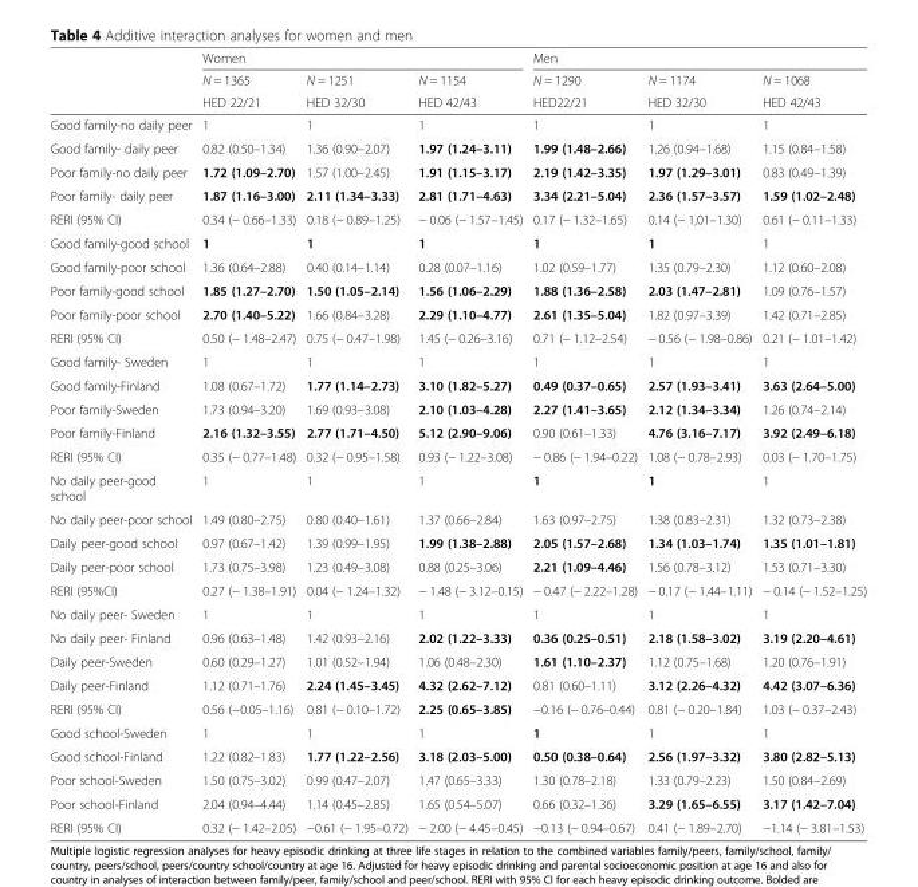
<table><thead><tr><td rowspan="3"></td><td colspan="3">Women</td><td colspan="3">Men</td></tr><tr><td rowspan="2">N = 1365 HED 22/21</td><td rowspan="2">N = 1251 HED 32/30</td><td rowspan="2">N = 1154 HED 42/43</td><td rowspan="2">N = 1290 HED22/21</td><td rowspan="2">N = 1174 HED 32/30</td><td rowspan="2">N = 1068 HED 42/43</td></tr><tr></tr></thead><tbody><tr><td>Good family-no daily peer</td><td>1</td><td>1</td><td>1</td><td>1</td><td>1</td><td>1</td></tr><tr><td>Good family- daily peer</td><td>0.82 (0.50–1.34)</td><td>1.36 (0.90–2.07)</td><td>1.97 (1.24–3.11)</td><td>1.99 (1.48–2.66)</td><td>1.26 (0.94–1.68)</td><td>1.15 (0.84–1.58)</td></tr><tr><td>Poor family-no daily peer</td><td>1.72 (1.09–2.70)</td><td>1.57 (1.00–2.45)</td><td>1.91 (1.15–3.17)</td><td>2.19 (1.42–3.35)</td><td>1.97 (1.29–3.01)</td><td>0.83 (0.49–1.39)</td></tr><tr><td>Poor family- daily peer</td><td>1.87 (1.16–3.00)</td><td>2.11 (1.34–3.33)</td><td>2.81 (1.71–4.63)</td><td>3.34 (2.21–5.04)</td><td>2.36 (1.57–3.57)</td><td>1.59 (1.02–2.48)</td></tr><tr><td>RERI (95% CI)</td><td>0.34 (− 0.66–1.33)</td><td>0.18 (− 0.89–1.25)</td><td>− 0.06 (− 1.57–1.45)</td><td>0.17 (− 1.32–1.65)</td><td>0.14 (− 1,01–1.30)</td><td>0.61 (− 0.11–1.33)</td></tr><tr><td>Good family-good school</td><td>1</td><td>1</td><td>1</td><td>1</td><td>1</td><td>1</td></tr><tr><td>Good family-poor school</td><td>1.36 (0.64–2.88)</td><td>0.40 (0.14–1.14)</td><td>0.28 (0.07–1.16)</td><td>1.02 (0.59–1.77)</td><td>1.35 (0.79–2.30)</td><td>1.12 (0.60–2.08)</td></tr><tr><td>Poor family-good school</td><td>1.85 (1.27–2.70)</td><td>1.50 (1.05–2.14)</td><td>1.56 (1.06–2.29)</td><td>1.88 (1.36–2.58)</td><td>2.03 (1.47–2.81)</td><td>1.09 (0.76–1.57)</td></tr><tr><td>Poor family-poor school</td><td>2.70 (1.40–5.22)</td><td>1.66 (0.84–3.28)</td><td>2.29 (1.10–4.77)</td><td>2.61 (1.35–5.04)</td><td>1.82 (0.97–3.39)</td><td>1.42 (0.71–2.85)</td></tr><tr><td>RERI (95% CI)</td><td>0.50 (− 1.48–2.47)</td><td>0.75 (− 0.47–1.98)</td><td>1.45 (− 0.26–3.16)</td><td>0.71 (− 1.12–2.54)</td><td>− 0.56 (− 1.98–0.86)</td><td>0.21 (− 1.01–1.42)</td></tr><tr><td>Good family- Sweden</td><td>1</td><td>1</td><td>1</td><td>1</td><td>1</td><td>1</td></tr><tr><td>Good family-Finland</td><td>1.08 (0.67–1.72)</td><td>1.77 (1.14–2.73)</td><td>3.10 (1.82–5.27)</td><td>0.49 (0.37–0.65)</td><td>2.57 (1.93–3.41)</td><td>3.63 (2.64–5.00)</td></tr><tr><td>Poor family-Sweden</td><td>1.73 (0.94–3.20)</td><td>1.69 (0.93–3.08)</td><td>2.10 (1.03–4.28)</td><td>2.27 (1.41–3.65)</td><td>2.12 (1.34–3.34)</td><td>1.26 (0.74–2.14)</td></tr><tr><td>Poor family-Finland</td><td>2.16 (1.32–3.55)</td><td>2.77 (1.71–4.50)</td><td>5.12 (2.90–9.06)</td><td>0.90 (0.61–1.33)</td><td>4.76 (3.16–7.17)</td><td>3.92 (2.49–6.18)</td></tr><tr><td>RERI (95% CI)</td><td>0.35 (− 0.77–1.48)</td><td>0.32 (− 0.95–1.58)</td><td>0.93 (− 1.22–3.08)</td><td>− 0.86 (− 1.94–0.22)</td><td>1.08 (− 0.78–2.93)</td><td>0.03 (− 1.70–1.75)</td></tr><tr><td>No daily peer-good school</td><td>1</td><td>1</td><td>1</td><td>1</td><td>1</td><td>1</td></tr><tr><td>No daily peer-poor school</td><td>1.49 (0.80–2.75)</td><td>0.80 (0.40–1.61)</td><td>1.37 (0.66–2.84)</td><td>1.63 (0.97–2.75)</td><td>1.38 (0.83–2.31)</td><td>1.32 (0.73–2.38)</td></tr><tr><td>Daily peer-good school</td><td>0.97 (0.67–1.42)</td><td>1.39 (0.99–1.95)</td><td>1.99 (1.38–2.88)</td><td>2.05 (1.57–2.68)</td><td>1.34 (1.03–1.74)</td><td>1.35 (1.01–1.81)</td></tr><tr><td>Daily peer-poor school</td><td>1.73 (0.75–3.98)</td><td>1.23 (0.49–3.08)</td><td>0.88 (0.25–3.06)</td><td>2.21 (1.09–4.46)</td><td>1.56 (0.78–3.12)</td><td>1.53 (0.71–3.30)</td></tr><tr><td>RERI (95%CI)</td><td>0.27 (− 1.38–1.91)</td><td>0.04 (− 1.24–1.32)</td><td>− 1.48 (− 3.12–0.15)</td><td>− 0.47 (− 2.22–1.28)</td><td>− 0.17 (− 1.44–1.11)</td><td>− 0.14 (− 1.52–1.25)</td></tr><tr><td>No daily peer- Sweden</td><td>1</td><td>1</td><td>1</td><td>1</td><td>1</td><td>1</td></tr><tr><td>No daily peer- Finland</td><td>0.96 (0.63–1.48)</td><td>1.42 (0.93–2.16)</td><td>2.02 (1.22–3.33)</td><td>0.36 (0.25–0.51)</td><td>2.18 (1.58–3.02)</td><td>3.19 (2.20–4.61)</td></tr><tr><td>Daily peer-Sweden</td><td>0.60 (0.29–1.27)</td><td>1.01 (0.52–1.94)</td><td>1.06 (0.48–2.30)</td><td>1.61 (1.10–2.37)</td><td>1.12 (0.75–1.68)</td><td>1.20 (0.76–1.91)</td></tr><tr><td>Daily peer-Finland</td><td>1.12 (0.71–1.76)</td><td>2.24 (1.45–3.45)</td><td>4.32 (2.62–7.12)</td><td>0.81 (0.60–1.11)</td><td>3.12 (2.26–4.32)</td><td>4.42 (3.07–6.36)</td></tr><tr><td>RERI (95% CI)</td><td>0.56 (−0.05–1.16)</td><td>0.81 (− 0.10–1.72)</td><td>2.25 (0.65–3.85)</td><td>−0.16 (− 0.76–0.44)</td><td>0.81 (− 0.20–1.84)</td><td>1.03 (− 0.37–2.43)</td></tr><tr><td>Good school-Sweden</td><td>1</td><td>1</td><td>1</td><td>1</td><td>1</td><td>1</td></tr><tr><td>Good school-Finland</td><td>1.22 (0.82–1.83)</td><td>1.77 (1.22–2.56)</td><td>3.18 (2.03–5.00)</td><td>0.50 (0.38–0.64)</td><td>2.56 (1.97–3.32)</td><td>3.80 (2.82–5.13)</td></tr><tr><td>Poor school-Sweden</td><td>1.50 (0.75–3.02)</td><td>0.99 (0.47–2.07)</td><td>1.47 (0.65–3.33)</td><td>1.30 (0.78–2.18)</td><td>1.33 (0.79–2.23)</td><td>1.50 (0.84–2.69)</td></tr><tr><td>Poor school-Finland</td><td>2.04 (0.94–4.44)</td><td>1.14 (0.45–2.85)</td><td>1.65 (0.54–5.07)</td><td>0.66 (0.32–1.36)</td><td>3.29 (1.65–6.55)</td><td>3.17 (1.42–7.04)</td></tr><tr><td>RERI (95% CI)</td><td>0.32 (− 1.42–2.05)</td><td>−0.61 (− 1.95–0.72)</td><td>− 2.00 (− 4.45–0.45)</td><td>−0.13 (− 0.94–0.67)</td><td>0.41 (− 1.89–2.70)</td><td>−1.14 (− 3.81–1.53)</td></tr></tbody></table>